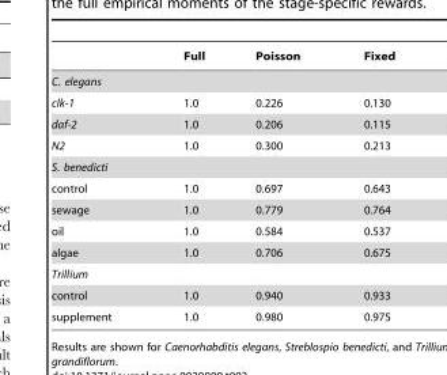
<table><thead><tr><td></td><td>Full</td><td>Poisson</td><td>Fixed</td></tr></thead><tbody><tr><td colspan="4">C. elegans</td></tr><tr><td>clk-1</td><td>1.0</td><td>0.226</td><td>0.130</td></tr><tr><td>daf-2</td><td>1.0</td><td>0.206</td><td>0.115</td></tr><tr><td>N2</td><td>1.0</td><td>0.300</td><td>0.213</td></tr><tr><td colspan="4">S. benedicti</td></tr><tr><td>control</td><td>1.0</td><td>0.697</td><td>0.643</td></tr><tr><td>sewage</td><td>1.0</td><td>0.779</td><td>0.764</td></tr><tr><td>oil</td><td>1.0</td><td>0.584</td><td>0.537</td></tr><tr><td>algae</td><td>1.0</td><td>0.706</td><td>0.675</td></tr><tr><td colspan="4">Trillium</td></tr><tr><td>control</td><td>1.0</td><td>0.940</td><td>0.933</td></tr><tr><td>supplement</td><td>1.0</td><td>0.980</td><td>0.975</td></tr></tbody></table>